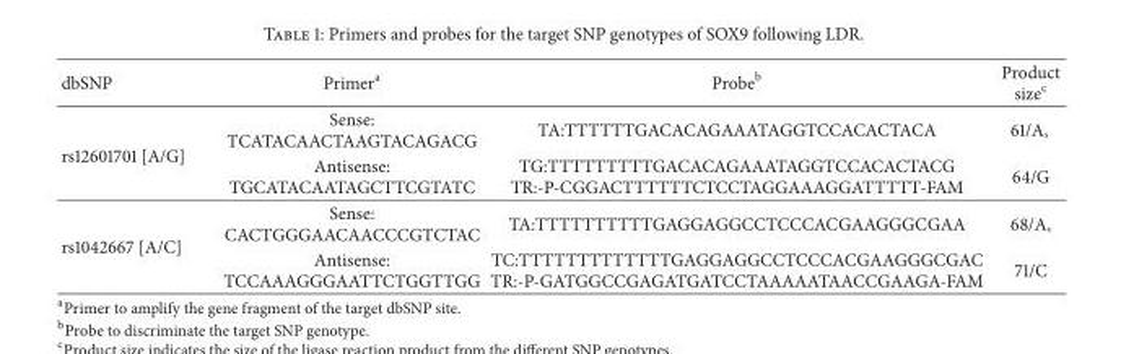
<table><thead><tr><td>dbSNP</td><td>Primer<sup>a</sup></td><td>Probe<sup>b</sup></td><td>Product size<sup>c</sup></td></tr></thead><tbody><tr><td rowspan="2">rs12601701 [A/G]</td><td>Sense: TCATACAACTAAGTACAGACG</td><td>TA:TTTTTTGACACAGAAATAGGTCCACACTACA</td><td>61/A,</td></tr><tr><td>Antisense: TGCATACAATAGCTTCGTATC</td><td>TG:TTTTTTTTTGACACAGAAATAGGTCCACACTACG TR:-P-CGGACTTTTTTCTCCTAGGAAAGGATTTTT-FAM</td><td>64/G</td></tr><tr><td rowspan="2">rs1042667 [A/C]</td><td>Sense: CACTGGGAACAACCCGTCTAC</td><td>TA:TTTTTTTTTTGAGGAGGCCTCCCACGAAGGGCGAA</td><td>68/A,</td></tr><tr><td>Antisense: TCCAAAGGGAATTCTGGTTGG</td><td>TC:TTTTTTTTTTTTTGAGGAGGCCTCCCACGAAGGGCGAC TR:-P-GATGGCCGAGATGATCCTAAAAATAACCGAAGA-FAM</td><td>71/C</td></tr></tbody></table>